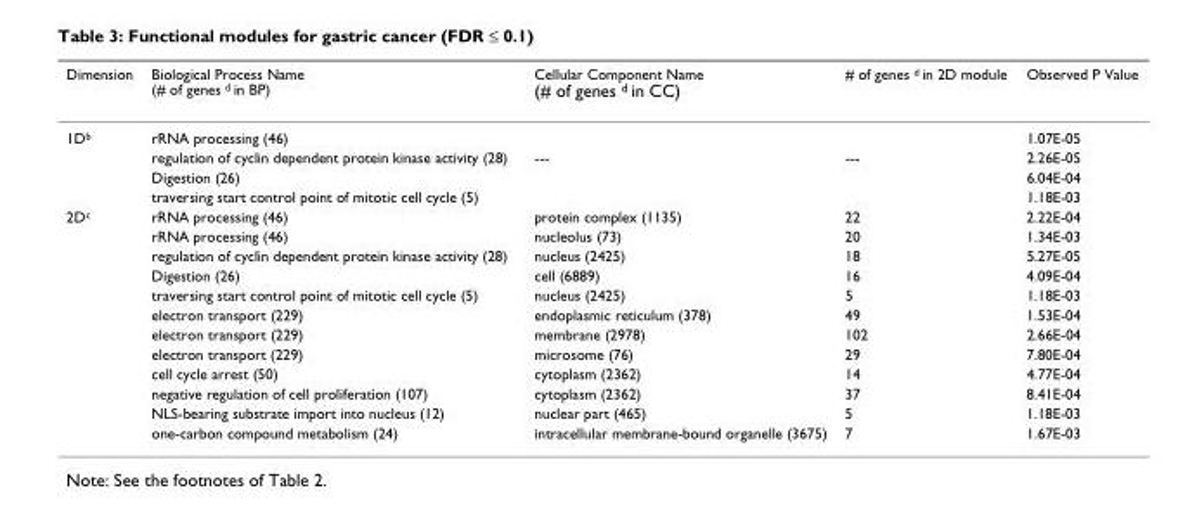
<table><thead><tr><td>Dimension</td><td>Biological Process Name (# of genes <sup>d</sup> in BP)</td><td>Cellular Component Name (# of genes <sup>d</sup> in CC)</td><td># of genes <sup>d</sup> in 2D module</td><td>Observed P Value</td></tr></thead><tbody><tr><td rowspan="4">1D<sup>b</sup></td><td>rRNA processing (46)</td><td></td><td></td><td>1.07E-05</td></tr><tr><td>regulation of cyclin dependent protein kinase activity (28)</td><td>---</td><td>---</td><td>2.26E-05</td></tr><tr><td>Digestion (26)</td><td></td><td></td><td>6.04E-04</td></tr><tr><td>traversing start control point of mitotic cell cycle (5)</td><td></td><td></td><td>1.18E-03</td></tr><tr><td rowspan="12">2D<sup>c</sup></td><td>rRNA processing (46)</td><td>protein complex (1135)</td><td>22</td><td>2.22E-04</td></tr><tr><td>rRNA processing (46)</td><td>nucleolus (73)</td><td>20</td><td>1.34E-03</td></tr><tr><td>regulation of cyclin dependent protein kinase activity (28)</td><td>nucleus (2425)</td><td>18</td><td>5.27E-05</td></tr><tr><td>Digestion (26)</td><td>cell (6889)</td><td>16</td><td>4.09E-04</td></tr><tr><td>traversing start control point of mitotic cell cycle (5)</td><td>nucleus (2425)</td><td>5</td><td>1.18E-03</td></tr><tr><td>electron transport (229)</td><td>endoplasmic reticulum (378)</td><td>49</td><td>1.53E-04</td></tr><tr><td>electron transport (229)</td><td>membrane (2978)</td><td>102</td><td>2.66E-04</td></tr><tr><td>electron transport (229)</td><td>microsome (76)</td><td>29</td><td>7.80E-04</td></tr><tr><td>cell cycle arrest (50)</td><td>cytoplasm (2362)</td><td>14</td><td>4.77E-04</td></tr><tr><td>negative regulation of cell proliferation (107)</td><td>cytoplasm (2362)</td><td>37</td><td>8.41E-04</td></tr><tr><td>NLS-bearing substrate import into nucleus (12)</td><td>nuclear part (465)</td><td>5</td><td>1.18E-03</td></tr><tr><td>one-carbon compound metabolism (24)</td><td>intracellular membrane-bound organelle (3675)</td><td>7</td><td>1.67E-03</td></tr></tbody></table>